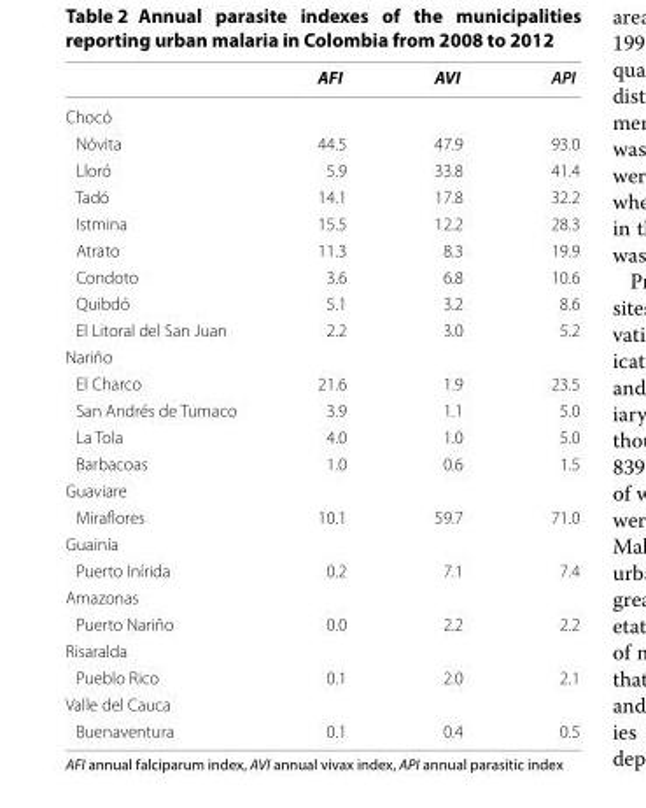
<table><thead><tr><td></td><td>AFI</td><td>AVI</td><td>API</td></tr></thead><tbody><tr><td colspan="4">Chocó</td></tr><tr><td>Nóvita</td><td>44.5</td><td>47.9</td><td>93.0</td></tr><tr><td>Lloró</td><td>5.9</td><td>33.8</td><td>41.4</td></tr><tr><td>Tadó</td><td>14.1</td><td>17.8</td><td>32.2</td></tr><tr><td>Istmina</td><td>15.5</td><td>12.2</td><td>28.3</td></tr><tr><td>Atrato</td><td>11.3</td><td>8.3</td><td>19.9</td></tr><tr><td>Condoto</td><td>3.6</td><td>6.8</td><td>10.6</td></tr><tr><td>Quibdó</td><td>5.1</td><td>3.2</td><td>8.6</td></tr><tr><td>El Litoral del San Juan</td><td>2.2</td><td>3.0</td><td>5.2</td></tr><tr><td colspan="4">Nariño</td></tr><tr><td>El Charco</td><td>21.6</td><td>1.9</td><td>23.5</td></tr><tr><td>San Andrés de Tumaco</td><td>3.9</td><td>1.1</td><td>5.0</td></tr><tr><td>La Tola</td><td>4.0</td><td>1.0</td><td>5.0</td></tr><tr><td>Barbacoas</td><td>1.0</td><td>0.6</td><td>1.5</td></tr><tr><td colspan="4">Guaviare</td></tr><tr><td>Miraflores</td><td>10.1</td><td>59.7</td><td>71.0</td></tr><tr><td colspan="4">Guainía</td></tr><tr><td>Puerto Inírida</td><td>0.2</td><td>7.1</td><td>7.4</td></tr><tr><td colspan="4">Amazonas</td></tr><tr><td>Puerto Nariño</td><td>0.0</td><td>2.2</td><td>2.2</td></tr><tr><td colspan="4">Risaralda</td></tr><tr><td>Pueblo Rico</td><td>0.1</td><td>2.0</td><td>2.1</td></tr><tr><td colspan="4">Valle del Cauca</td></tr><tr><td>Buenaventura</td><td>0.1</td><td>0.4</td><td>0.5</td></tr></tbody></table>